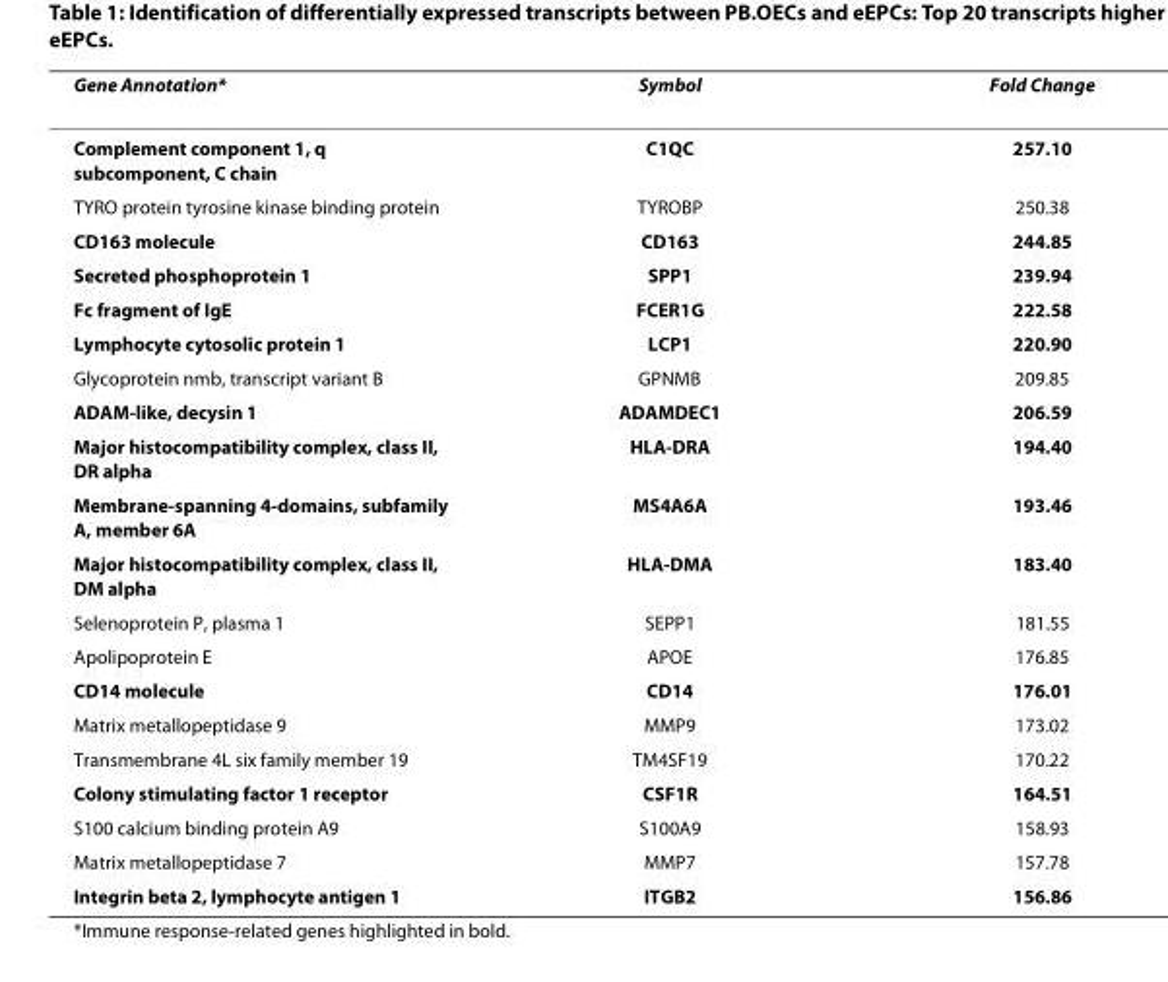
<table><thead><tr><td>Gene Annotation*</td><td>Symbol</td><td>Fold Change</td></tr></thead><tbody><tr><td>Complement component 1, q subcomponent, C chain</td><td>C1QC</td><td>257.10</td></tr><tr><td>TYRO protein tyrosine kinase binding protein</td><td>TYROBP</td><td>250.38</td></tr><tr><td>CD163 molecule</td><td>CD163</td><td>244.85</td></tr><tr><td>Secreted phosphoprotein 1</td><td>SPP1</td><td>239.94</td></tr><tr><td>Fc fragment of IgE</td><td>FCER1G</td><td>222.58</td></tr><tr><td>Lymphocyte cytosolic protein 1</td><td>LCP1</td><td>220.90</td></tr><tr><td>Glycoprotein nmb, transcript variant B</td><td>GPNMB</td><td>209.85</td></tr><tr><td>ADAM-like, decysin 1</td><td>ADAMDEC1</td><td>206.59</td></tr><tr><td>Major histocompatibility complex, class II, DR alpha</td><td>HLA-DRA</td><td>194.40</td></tr><tr><td>Membrane-spanning 4-domains, subfamily A, member 6A</td><td>MS4A6A</td><td>193.46</td></tr><tr><td>Major histocompatibility complex, class II, DM alpha</td><td>HLA-DMA</td><td>183.40</td></tr><tr><td>Selenoprotein P, plasma 1</td><td>SEPP1</td><td>181.55</td></tr><tr><td>Apolipoprotein E</td><td>APOE</td><td>176.85</td></tr><tr><td>CD14 molecule</td><td>CD14</td><td>176.01</td></tr><tr><td>Matrix metallopeptidase 9</td><td>MMP9</td><td>173.02</td></tr><tr><td>Transmembrane 4L six family member 19</td><td>TM4SF19</td><td>170.22</td></tr><tr><td>Colony stimulating factor 1 receptor</td><td>CSF1R</td><td>164.51</td></tr><tr><td>S100 calcium binding protein A9</td><td>S100A9</td><td>158.93</td></tr><tr><td>Matrix metallopeptidase 7</td><td>MMP7</td><td>157.78</td></tr><tr><td>Integrin beta 2, lymphocyte antigen 1</td><td>ITGB2</td><td>156.86</td></tr></tbody></table>